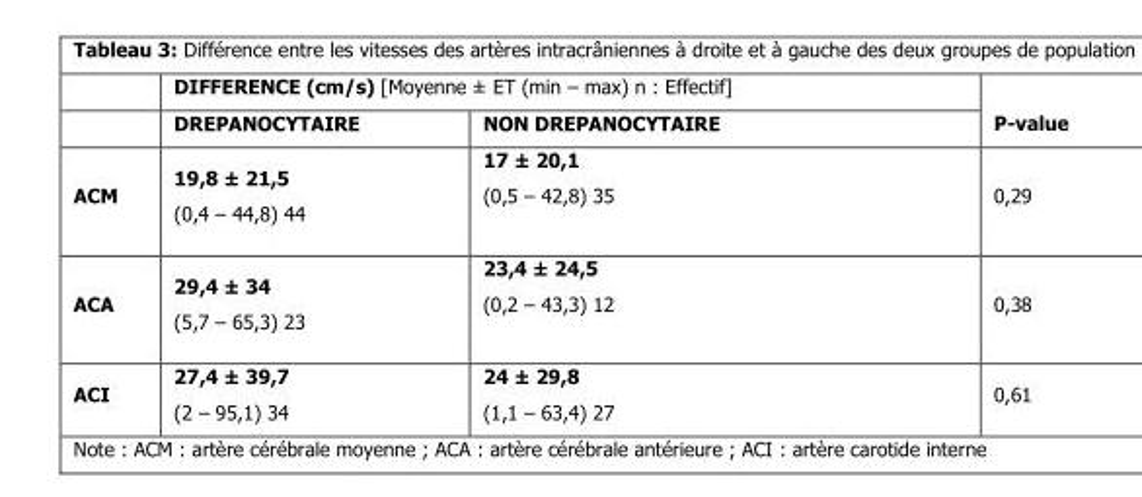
<table><thead><tr><td rowspan="2"></td><td colspan="2">DIFFERENCE (cm/s) [Moyenne ± ET (min – max) n : Effectif]</td><td rowspan="2">P-value</td></tr><tr><td>DREPANOCYTAIRE</td><td>NON DREPANOCYTAIRE</td></tr></thead><tbody><tr><td>ACM</td><td>19,8 ± 21,5 (0,4 – 44,8) 44</td><td>17 ± 20,1 (0,5 – 42,8) 35</td><td>0,29</td></tr><tr><td>ACA</td><td>29,4 ± 34 (5,7 – 65,3) 23</td><td>23,4 ± 24,5 (0,2 – 43,3) 12</td><td>0,38</td></tr><tr><td>ACI</td><td>27,4 ± 39,7 (2 – 95,1) 34</td><td>24 ± 29,8 (1,1 – 63,4) 27</td><td>0,61</td></tr></tbody></table>